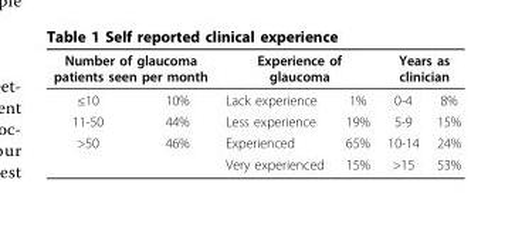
<table><thead><tr><td colspan="2">Number of glaucoma patients seen per month</td><td colspan="2">Experience of glaucoma</td><td colspan="2">Years as clinician</td></tr><tr><td>≤10</td><td>10%</td><td>Lack experience</td><td>1%</td><td>0-4</td><td>8%</td></tr></thead><tbody><tr><td>11-50</td><td>44%</td><td>Less experience</td><td>19%</td><td>5-9</td><td>15%</td></tr><tr><td rowspan="2">&gt;50</td><td>46%</td><td>Experienced</td><td>65%</td><td>10-14</td><td>24%</td></tr><tr><td></td><td>Very experienced</td><td>15%</td><td>&gt;15</td><td>53%</td></tr></tbody></table>